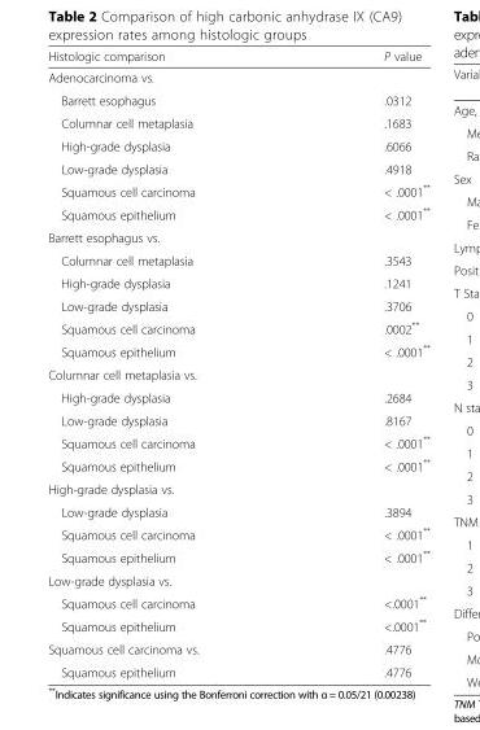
<table><thead><tr><td>Histologic comparison</td><td>P value</td></tr></thead><tbody><tr><td colspan="2">Adenocarcinoma vs.</td></tr><tr><td>Barrett esophagus</td><td>.0312</td></tr><tr><td>Columnar cell metaplasia</td><td>.1683</td></tr><tr><td>High-grade dysplasia</td><td>.6066</td></tr><tr><td>Low-grade dysplasia</td><td>.4918</td></tr><tr><td>Squamous cell carcinoma</td><td>&lt; .0001**</td></tr><tr><td>Squamous epithelium</td><td>&lt; .0001**</td></tr><tr><td colspan="2">Barrett esophagus vs.</td></tr><tr><td>Columnar cell metaplasia</td><td>.3543</td></tr><tr><td>High-grade dysplasia</td><td>.1241</td></tr><tr><td>Low-grade dysplasia</td><td>.3706</td></tr><tr><td>Squamous cell carcinoma</td><td>.0002**</td></tr><tr><td>Squamous epithelium</td><td>&lt; .0001**</td></tr><tr><td colspan="2">Columnar cell metaplasia vs.</td></tr><tr><td>High-grade dysplasia</td><td>.2684</td></tr><tr><td>Low-grade dysplasia</td><td>.8167</td></tr><tr><td>Squamous cell carcinoma</td><td>&lt; .0001**</td></tr><tr><td>Squamous epithelium</td><td>&lt; .0001**</td></tr><tr><td colspan="2">High-grade dysplasia vs.</td></tr><tr><td>Low-grade dysplasia</td><td>.3894</td></tr><tr><td>Squamous cell carcinoma</td><td>&lt; .0001**</td></tr><tr><td>Squamous epithelium</td><td>&lt; .0001**</td></tr><tr><td colspan="2">Low-grade dysplasia vs.</td></tr><tr><td>Squamous cell carcinoma</td><td>&lt;.0001**</td></tr><tr><td>Squamous epithelium</td><td>&lt;.0001**</td></tr><tr><td>Squamous cell carcinoma vs.</td><td>.4776</td></tr><tr><td>Squamous epithelium</td><td>.4776</td></tr></tbody></table>